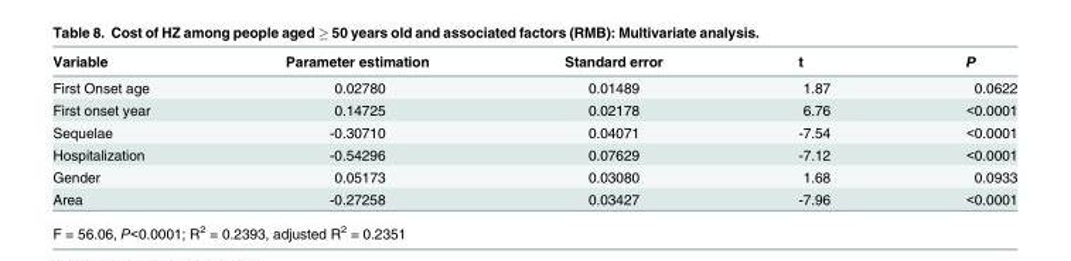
<table><thead><tr><td>Variable</td><td>Parameter estimation</td><td>Standard error</td><td>t</td><td>P</td></tr></thead><tbody><tr><td>First Onset age</td><td>0.02780</td><td>0.01489</td><td>1.87</td><td>0.0622</td></tr><tr><td>First onset year</td><td>0.14725</td><td>0.02178</td><td>6.76</td><td>&lt;0.0001</td></tr><tr><td>Sequelae</td><td>-0.30710</td><td>0.04071</td><td>-7.54</td><td>&lt;0.0001</td></tr><tr><td>Hospitalization</td><td>-0.54296</td><td>0.07629</td><td>-7.12</td><td>&lt;0.0001</td></tr><tr><td>Gender</td><td>0.05173</td><td>0.03080</td><td>1.68</td><td>0.0933</td></tr><tr><td>Area</td><td>-0.27258</td><td>0.03427</td><td>-7.96</td><td>&lt;0.0001</td></tr></tbody></table>